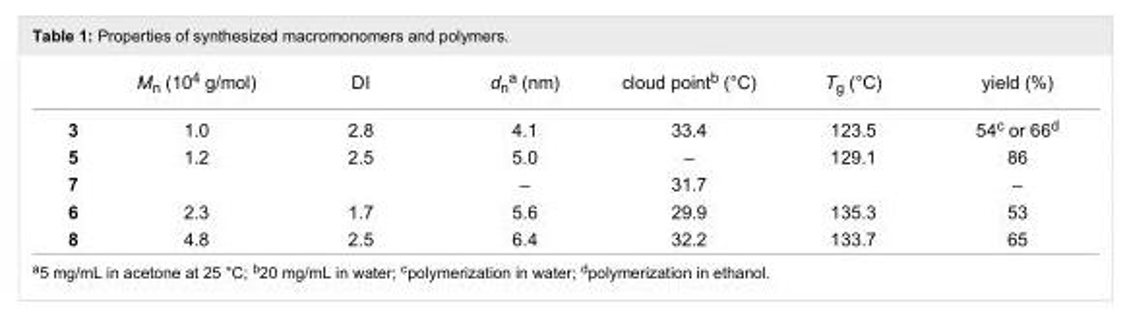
<table><thead><tr><td></td><td>M<sub>n</sub> (10<sup>4</sup> g/mol)</td><td>DI</td><td>d<sub>n</sub><sup>a</sup> (nm)</td><td>cloud point<sup>b</sup> (°C)</td><td>T<sub>g</sub> (°C)</td><td>yield (%)</td></tr></thead><tbody><tr><td>3</td><td>1.0</td><td>2.8</td><td>4.1</td><td>33.4</td><td>123.5</td><td>54<sup>c</sup> or 66<sup>d</sup></td></tr><tr><td>5</td><td>1.2</td><td>2.5</td><td>5.0</td><td>–</td><td>129.1</td><td>86</td></tr><tr><td>7</td><td></td><td></td><td>–</td><td>31.7</td><td></td><td>–</td></tr><tr><td>6</td><td>2.3</td><td>1.7</td><td>5.6</td><td>29.9</td><td>135.3</td><td>53</td></tr><tr><td>8</td><td>4.8</td><td>2.5</td><td>6.4</td><td>32.2</td><td>133.7</td><td>65</td></tr></tbody></table>